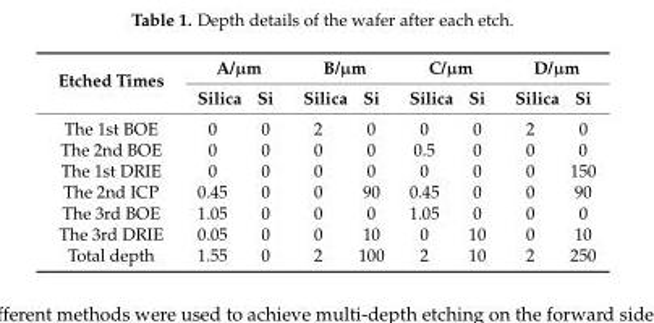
<table><thead><tr><td rowspan="2">Etched Times</td><td colspan="2">A/µm</td><td colspan="2">B/µm</td><td colspan="2">C/µm</td><td colspan="2">D/µm</td></tr><tr><td>Silica</td><td>Si</td><td>Silica</td><td>Si</td><td>Silica</td><td>Si</td><td>Silica</td><td>Si</td></tr></thead><tbody><tr><td>The 1st BOE</td><td>0</td><td>0</td><td>2</td><td>0</td><td>0</td><td>0</td><td>2</td><td>0</td></tr><tr><td>The 2nd BOE</td><td>0</td><td>0</td><td>0</td><td>0</td><td>0.5</td><td>0</td><td>0</td><td>0</td></tr><tr><td>The 1st DRIE</td><td>0</td><td>0</td><td>0</td><td>0</td><td>0</td><td>0</td><td>0</td><td>150</td></tr><tr><td>The 2nd ICP</td><td>0.45</td><td>0</td><td>0</td><td>90</td><td>0.45</td><td>0</td><td>0</td><td>90</td></tr><tr><td>The 3rd BOE</td><td>1.05</td><td>0</td><td>0</td><td>0</td><td>1.05</td><td>0</td><td>0</td><td>0</td></tr><tr><td>The 3rd DRIE</td><td>0.05</td><td>0</td><td>0</td><td>10</td><td>0</td><td>10</td><td>0</td><td>10</td></tr><tr><td>Total depth</td><td>1.55</td><td>0</td><td>2</td><td>100</td><td>2</td><td>10</td><td>2</td><td>250</td></tr></tbody></table>